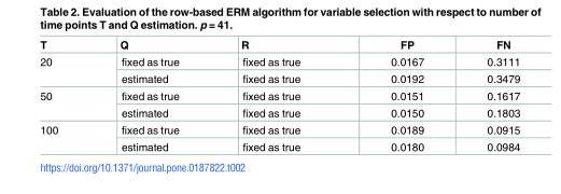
<table><thead><tr><td>T</td><td>Q</td><td>R</td><td>FP</td><td>FN</td></tr></thead><tbody><tr><td rowspan="2">20</td><td>fixed as true</td><td>fixed as true</td><td>0.0167</td><td>0.3111</td></tr><tr><td>estimated</td><td>fixed as true</td><td>0.0192</td><td>0.3479</td></tr><tr><td rowspan="2">50</td><td>fixed as true</td><td>fixed as true</td><td>0.0151</td><td>0.1617</td></tr><tr><td>estimated</td><td>fixed as true</td><td>0.0150</td><td>0.1803</td></tr><tr><td rowspan="2">100</td><td>fixed as true</td><td>fixed as true</td><td>0.0189</td><td>0.0915</td></tr><tr><td>estimated</td><td>fixed as true</td><td>0.0180</td><td>0.0984</td></tr></tbody></table>